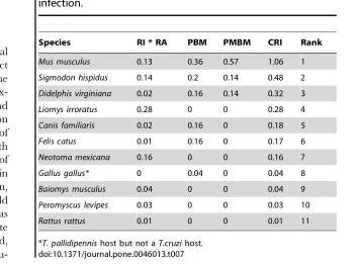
<table><thead><tr><td>Species</td><td>RI * RA</td><td>PBM</td><td>PMBM</td><td>CRI</td><td>Rank</td></tr></thead><tbody><tr><td>Mus musculus</td><td>0.13</td><td>0.36</td><td>0.57</td><td>1.06</td><td>1</td></tr><tr><td>Sigmodon hispidus</td><td>0.14</td><td>0.2</td><td>0.14</td><td>0.48</td><td>2</td></tr><tr><td>Didelphis virginiana</td><td>0.02</td><td>0.16</td><td>0.14</td><td>0.32</td><td>3</td></tr><tr><td>Liomys irroratus</td><td>0.28</td><td>0</td><td>0</td><td>0.28</td><td>4</td></tr><tr><td>Canis familiaris</td><td>0.02</td><td>0.16</td><td>0</td><td>0.18</td><td>5</td></tr><tr><td>Felis catus</td><td>0.01</td><td>0.16</td><td>0</td><td>0.17</td><td>6</td></tr><tr><td>Neotoma mexicana</td><td>0.16</td><td>0</td><td>0</td><td>0.16</td><td>7</td></tr><tr><td>Gallus gallus*</td><td>0</td><td>0.04</td><td>0</td><td>0.04</td><td>8</td></tr><tr><td>Baiomys musculus</td><td>0.04</td><td>0</td><td>0</td><td>0.04</td><td>9</td></tr><tr><td>Peromyscus levipes</td><td>0.03</td><td>0</td><td>0</td><td>0.03</td><td>10</td></tr><tr><td>Rattus rattus</td><td>0.01</td><td>0</td><td>0</td><td>0.01</td><td>11</td></tr></tbody></table>